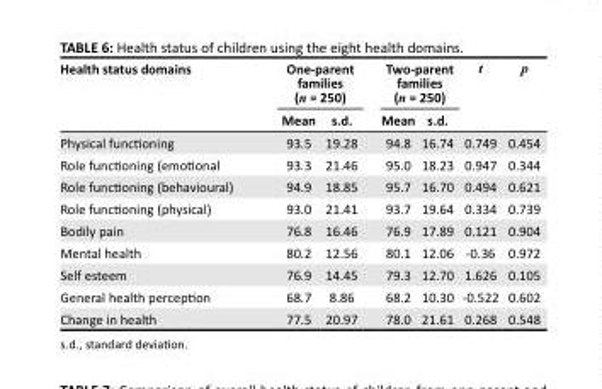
<table><thead><tr><td rowspan="2">Health status domains</td><td colspan="2">One-parent families (n = 250)</td><td colspan="2">Two-parent families (n = 250)</td><td rowspan="2">t</td><td rowspan="2">p</td></tr><tr><td>Mean</td><td>s.d.</td><td>Mean</td><td>s.d.</td></tr></thead><tbody><tr><td>Physical functioning</td><td>93.5</td><td>19.28</td><td>94.8</td><td>16.74</td><td>0.749</td><td>0.454</td></tr><tr><td>Role functioning (emotional</td><td>93.3</td><td>21.46</td><td>95.0</td><td>18.23</td><td>0.947</td><td>0.344</td></tr><tr><td>Role functioning (behavioural)</td><td>94.9</td><td>18.85</td><td>95.7</td><td>16.70</td><td>0.494</td><td>0.621</td></tr><tr><td>Role functioning (physical)</td><td>93.0</td><td>21.41</td><td>93.7</td><td>19.64</td><td>0.334</td><td>0.739</td></tr><tr><td>Bodily pain</td><td>76.8</td><td>16.46</td><td>76.9</td><td>17.89</td><td>0.121</td><td>0.904</td></tr><tr><td>Mental health</td><td>80.2</td><td>12.56</td><td>80.1</td><td>12.06</td><td>-0.36</td><td>0.972</td></tr><tr><td>Self esteem</td><td>76.9</td><td>14.45</td><td>79.3</td><td>12.70</td><td>1.626</td><td>0.105</td></tr><tr><td>General health perception</td><td>68.7</td><td>8.86</td><td>68.2</td><td>10.30</td><td>-0.522</td><td>0.602</td></tr><tr><td>Change in health</td><td>77.5</td><td>20.97</td><td>78.0</td><td>21.61</td><td>0.268</td><td>0.548</td></tr></tbody></table>